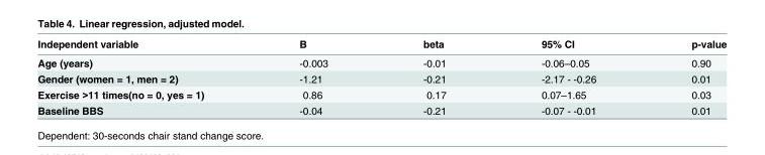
<table><thead><tr><td>Independent variable</td><td>B</td><td>beta</td><td>95% CI</td><td>p-value</td></tr></thead><tbody><tr><td>Age (years)</td><td>-0.003</td><td>-0.01</td><td>-0.06–0.05</td><td>0.90</td></tr><tr><td>Gender (women = 1, men = 2)</td><td>-1.21</td><td>-0.21</td><td>-2.17 - -0.26</td><td>0.01</td></tr><tr><td>Exercise &gt;11 times(no = 0, yes = 1)</td><td>0.86</td><td>0.17</td><td>0.07–1.65</td><td>0.03</td></tr><tr><td>Baseline BBS</td><td>-0.04</td><td>-0.21</td><td>-0.07 - -0.01</td><td>0.01</td></tr></tbody></table>